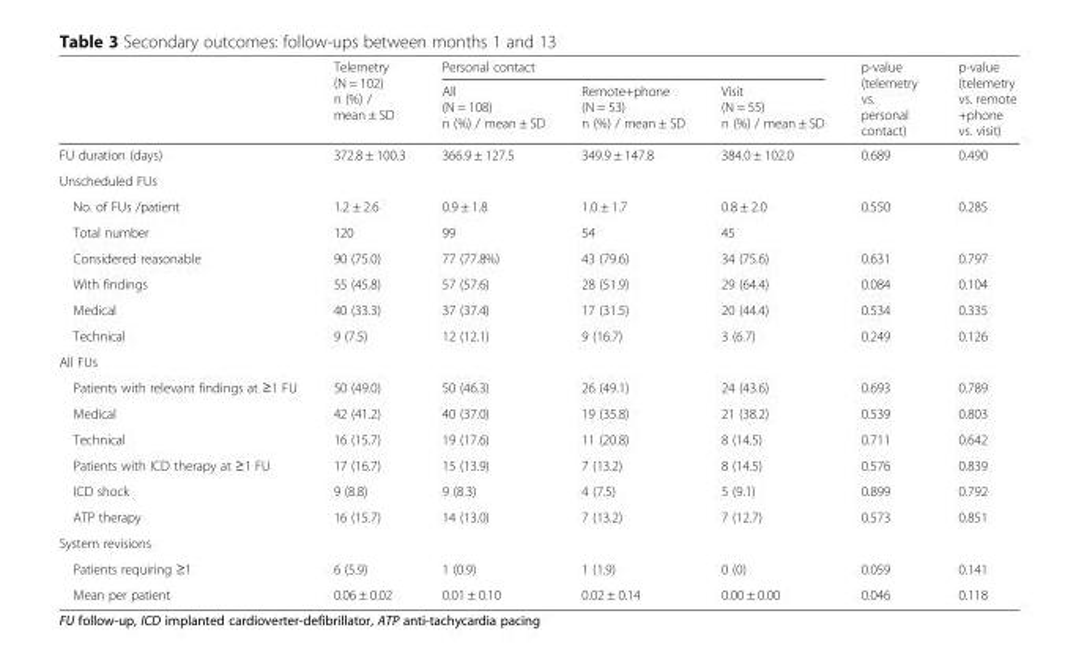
<table><thead><tr><td rowspan="2"></td><td rowspan="2">Telemetry (N = 102) n (%) / mean ± SD</td><td colspan="3">Personal contact</td><td rowspan="2">p-value (telemetry vs. personal contact)</td><td rowspan="2">p-value (telemetry vs. remote +phone vs. visit)</td></tr><tr><td>All (N = 108) n (%) / mean ± SD</td><td>Remote+phone (N = 53) n (%) / mean ± SD</td><td>Visit (N = 55) n (%) / mean ± SD</td></tr></thead><tbody><tr><td>FU duration (days)</td><td>372.8 ± 100.3</td><td>366.9 ± 127.5</td><td>349.9 ± 147.8</td><td>384.0 ± 102.0</td><td>0.689</td><td>0.490</td></tr><tr><td colspan="7">Unscheduled FUs</td></tr><tr><td>No. of FUs /patient</td><td>1.2 ± 2.6</td><td>0.9 ± 1.8</td><td>1.0 ± 1.7</td><td>0.8 ± 2.0</td><td>0.550</td><td>0.285</td></tr><tr><td>Total number</td><td>120</td><td>99</td><td>54</td><td>45</td><td></td><td></td></tr><tr><td>Considered reasonable</td><td>90 (75.0)</td><td>77 (77.8%)</td><td>43 (79.6)</td><td>34 (75.6)</td><td>0.631</td><td>0.797</td></tr><tr><td>With findings</td><td>55 (45.8)</td><td>57 (57.6)</td><td>28 (51.9)</td><td>29 (64.4)</td><td>0.084</td><td>0.104</td></tr><tr><td>Medical</td><td>40 (33.3)</td><td>37 (37.4)</td><td>17 (31.5)</td><td>20 (44.4)</td><td>0.534</td><td>0.335</td></tr><tr><td>Technical</td><td>9 (7.5)</td><td>12 (12.1)</td><td>9 (16.7)</td><td>3 (6.7)</td><td>0.249</td><td>0.126</td></tr><tr><td colspan="7">All FUs</td></tr><tr><td>Patients with relevant findings at ≥1 FU</td><td>50 (49.0)</td><td>50 (46.3)</td><td>26 (49.1)</td><td>24 (43.6)</td><td>0.693</td><td>0.789</td></tr><tr><td>Medical</td><td>42 (41.2)</td><td>40 (37.0)</td><td>19 (35.8)</td><td>21 (38.2)</td><td>0.539</td><td>0.803</td></tr><tr><td>Technical</td><td>16 (15.7)</td><td>19 (17.6)</td><td>11 (20.8)</td><td>8 (14.5)</td><td>0.711</td><td>0.642</td></tr><tr><td>Patients with ICD therapy at ≥1 FU</td><td>17 (16.7)</td><td>15 (13.9)</td><td>7 (13.2)</td><td>8 (14.5)</td><td>0.576</td><td>0.839</td></tr><tr><td>ICD shock</td><td>9 (8.8)</td><td>9 (8.3)</td><td>4 (7.5)</td><td>5 (9.1)</td><td>0.899</td><td>0.792</td></tr><tr><td>ATP therapy</td><td>16 (15.7)</td><td>14 (13.0)</td><td>7 (13.2)</td><td>7 (12.7)</td><td>0.573</td><td>0.851</td></tr><tr><td colspan="7">System revisions</td></tr><tr><td>Patients requiring ≥1</td><td>6 (5.9)</td><td>1 (0.9)</td><td>1 (1.9)</td><td>0 (0)</td><td>0.059</td><td>0.141</td></tr><tr><td>Mean per patient</td><td>0.06 ± 0.02</td><td>0.01 ± 0.10</td><td>0.02 ± 0.14</td><td>0.00 ± 0.00</td><td>0.046</td><td>0.118</td></tr></tbody></table>